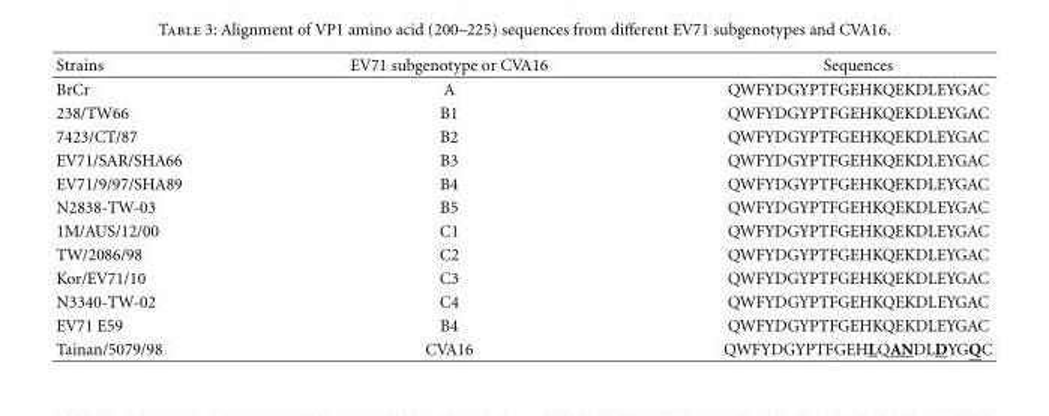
<table><thead><tr><td>Strains</td><td>EV71 subgenotype or CVA16</td><td>Sequences</td></tr></thead><tbody><tr><td>BrCr</td><td>A</td><td>QWFYDGYPTFGEHKQEKDLEYGAC</td></tr><tr><td>238/TW66</td><td>B1</td><td>QWFYDGYPTFGEHKQEKDLEYGAC</td></tr><tr><td>7423/CT/87</td><td>B2</td><td>QWFYDGYPTFGEHKQEKDLEYGAC</td></tr><tr><td>EV71/SAR/SHA66</td><td>B3</td><td>QWFYDGYPTFGEHKQEKDLEYGAC</td></tr><tr><td>EV71/9/97/SHA89</td><td>B4</td><td>QWFYDGYPTFGEHKQEKDLEYGAC</td></tr><tr><td>N2838-TW-03</td><td>B5</td><td>QWFYDGYPTFGEHKQEKDLEYGAC</td></tr><tr><td>1M/AUS/12/00</td><td>C1</td><td>QWFYDGYPTFGEHKQEKDLEYGAC</td></tr><tr><td>TW/2086/98</td><td>C2</td><td>QWFYDGYPTFGEHKQEKDLEYGAC</td></tr><tr><td>Kor/EV71/10</td><td>C3</td><td>QWFYDGYPTFGEHKQEKDLEYGAC</td></tr><tr><td>N3340-TW-02</td><td>C4</td><td>QWFYDGYPTFGEHKQEKDLEYGAC</td></tr><tr><td>EV71 E59</td><td>B4</td><td>QWFYDGYPTFGEHKQEKDLEYGAC</td></tr><tr><td>Tainan/5079/98</td><td>CVA16</td><td>QWFYDGYPTFGEHLQANDLDYGQC</td></tr></tbody></table>